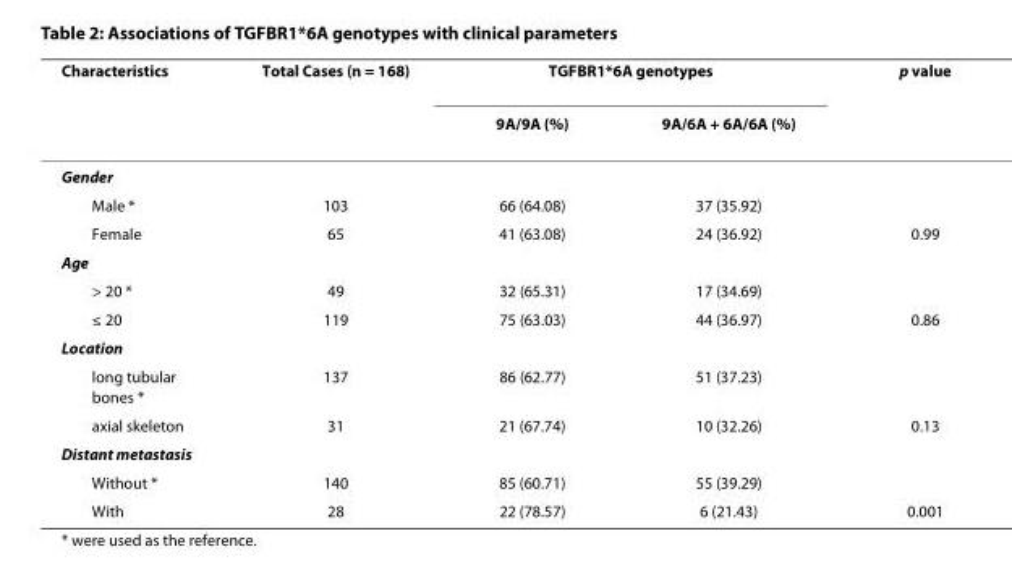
<table><thead><tr><td rowspan="2">Characteristics</td><td rowspan="2">Total Cases (n = 168)</td><td colspan="2">TGFBR1*6A genotypes</td><td rowspan="2">p value</td></tr><tr><td>9A/9A (%)</td><td>9A/6A + 6A/6A (%)</td></tr></thead><tbody><tr><td colspan="5">Gender</td></tr><tr><td>Male *</td><td>103</td><td>66 (64.08)</td><td>37 (35.92)</td><td></td></tr><tr><td>Female</td><td>65</td><td>41 (63.08)</td><td>24 (36.92)</td><td>0.99</td></tr><tr><td colspan="5">Age</td></tr><tr><td>&gt; 20 *</td><td>49</td><td>32 (65.31)</td><td>17 (34.69)</td><td></td></tr><tr><td>≤ 20</td><td>119</td><td>75 (63.03)</td><td>44 (36.97)</td><td>0.86</td></tr><tr><td colspan="5">Location</td></tr><tr><td>long tubular bones *</td><td>137</td><td>86 (62.77)</td><td>51 (37.23)</td><td></td></tr><tr><td>axial skeleton</td><td>31</td><td>21 (67.74)</td><td>10 (32.26)</td><td>0.13</td></tr><tr><td colspan="5">Distant metastasis</td></tr><tr><td>Without *</td><td>140</td><td>85 (60.71)</td><td>55 (39.29)</td><td></td></tr><tr><td>With</td><td>28</td><td>22 (78.57)</td><td>6 (21.43)</td><td>0.001</td></tr></tbody></table>